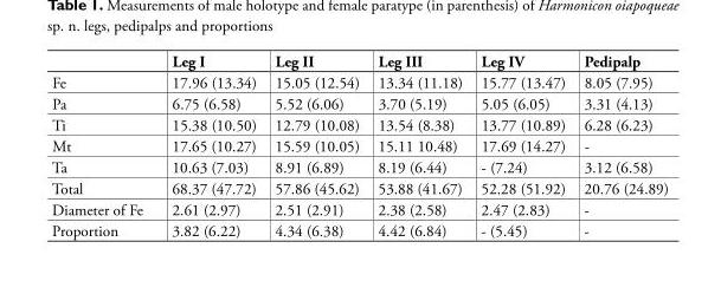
<table><thead><tr><td></td><td>Leg I</td><td>Leg II</td><td>Leg III</td><td>Leg IV</td><td>Pedipalp</td></tr></thead><tbody><tr><td>Fe</td><td>17.96 (13.34)</td><td>15.05 (12.54)</td><td>13.34 (11.18)</td><td>15.77 (13.47)</td><td>8.05 (7.95)</td></tr><tr><td>Pa</td><td>6.75 (6.58)</td><td>5.52 (6.06)</td><td>3.70 (5.19)</td><td>5.05 (6.05)</td><td>3.31 (4.13)</td></tr><tr><td>Ti</td><td>15.38 (10.50)</td><td>12.79 (10.08)</td><td>13.54 (8.38)</td><td>13.77 (10.89)</td><td>6.28 (6.23)</td></tr><tr><td>Mt</td><td>17.65 (10.27)</td><td>15.59 (10.05)</td><td>15.11 10.48)</td><td>17.69 (14.27)</td><td>-</td></tr><tr><td>Ta</td><td>10.63 (7.03)</td><td>8.91 (6.89)</td><td>8.19 (6.44)</td><td>- (7.24)</td><td>3.12 (6.58)</td></tr><tr><td>Total</td><td>68.37 (47.72)</td><td>57.86 (45.62)</td><td>53.88 (41.67)</td><td>52.28 (51.92)</td><td>20.76 (24.89)</td></tr><tr><td>Diameter of Fe</td><td>2.61 (2.97)</td><td>2.51 (2.91)</td><td>2.38 (2.58)</td><td>2.47 (2.83)</td><td>-</td></tr><tr><td>Proportion</td><td>3.82 (6.22)</td><td>4.34 (6.38)</td><td>4.42 (6.84)</td><td>- (5.45)</td><td>-</td></tr></tbody></table>